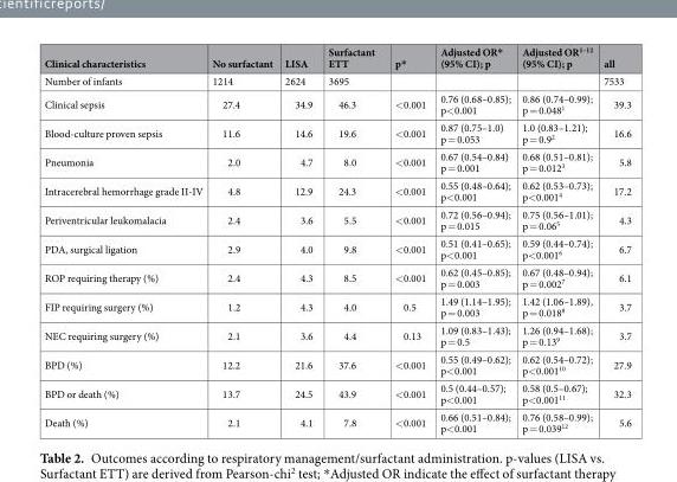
<table><thead><tr><td>Clinical characteristics</td><td>No surfactant</td><td>LISA</td><td>Surfactant ETT</td><td>p*</td><td>Adjusted OR* (95% CI); p</td><td>Adjusted OR<sup>1–12</sup> (95% CI); p</td><td>all</td></tr></thead><tbody><tr><td>Number of infants</td><td>1214</td><td>2624</td><td>3695</td><td></td><td></td><td></td><td>7533</td></tr><tr><td>Clinical sepsis</td><td>27.4</td><td>34.9</td><td>46.3</td><td>&lt;0.001</td><td>0.76 (0.68–0.85); p&lt;0.001</td><td>0.86 (0.74–0.99); p = 0.048<sup>1</sup></td><td>39.3</td></tr><tr><td>Blood-culture proven sepsis</td><td>11.6</td><td>14.6</td><td>19.6</td><td>&lt;0.001</td><td>0.87 (0.75–1.0) p = 0.053</td><td>1.0 (0.83–1.21); p = 0.9<sup>2</sup></td><td>16.6</td></tr><tr><td>Pneumonia</td><td>2.0</td><td>4.7</td><td>8.0</td><td>&lt;0.001</td><td>0.67 (0.54–0.84) p = 0.001</td><td>0.68 (0.51–0.81); p = 0.012<sup>3</sup></td><td>5.8</td></tr><tr><td>Intracerebral hemorrhage grade II-IV</td><td>4.8</td><td>12.9</td><td>24.3</td><td>&lt;0.001</td><td>0.55 (0.48–0.64); p&lt;0.001</td><td>0.62 (0.53–0.73); p&lt;0.001<sup>4</sup></td><td>17.2</td></tr><tr><td>Periventricular leukomalacia</td><td>2.4</td><td>3.6</td><td>5.5</td><td>&lt;0.001</td><td>0.72 (0.56–0.94); p = 0.015</td><td>0.75 (0.56–1.01); p = 0.06<sup>5</sup></td><td>4.3</td></tr><tr><td>PDA, surgical ligation</td><td>2.9</td><td>4.0</td><td>9.8</td><td>&lt;0.001</td><td>0.51 (0.41–0.65); p&lt;0.001</td><td>0.59 (0.44–0.74); p&lt;0.001<sup>6</sup></td><td>6.7</td></tr><tr><td>ROP requiring therapy (%)</td><td>2.4</td><td>4.3</td><td>8.5</td><td>&lt;0.001</td><td>0.62 (0.45–0.85); p = 0.003</td><td>0.67 (0.48–0.94); p = 0.002<sup>7</sup></td><td>6.1</td></tr><tr><td>FIP requiring surgery (%)</td><td>1.2</td><td>4.3</td><td>4.0</td><td>0.5</td><td>1.49 (1.14–1.95); p = 0.003</td><td>1.42 (1.06–1.89), p = 0.018<sup>8</sup></td><td>3.7</td></tr><tr><td>NEC requiring surgery (%)</td><td>2.1</td><td>3.6</td><td>4.4</td><td>0.13</td><td>1.09 (0.83–1.43); p = 0.5</td><td>1.26 (0.94–1.68); p = 0.13<sup>9</sup></td><td>3.7</td></tr><tr><td>BPD (%)</td><td>12.2</td><td>21.6</td><td>37.6</td><td>&lt;0.001</td><td>0.55 (0.49–0.62); p&lt;0.001</td><td>0.62 (0.54–0.72); p&lt;0.001<sup>10</sup></td><td>27.9</td></tr><tr><td>BPD or death (%)</td><td>13.7</td><td>24.5</td><td>43.9</td><td>&lt;0.001</td><td>0.5 (0.44–0.57); p&lt;0.001</td><td>0.58 (0.5–0.67); p&lt;0.001<sup>11</sup></td><td>32.3</td></tr><tr><td>Death (%)</td><td>2.1</td><td>4.1</td><td>7.8</td><td>&lt;0.001</td><td>0.66 (0.51–0.84); p&lt;0.001</td><td>0.76 (0.58–0.99); p = 0.039<sup>12</sup></td><td>5.6</td></tr></tbody></table>